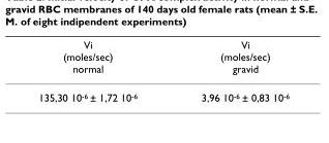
<table><thead><tr><td>Vi (moles/sec) normal</td><td>Vi (moles/sec) gravid</td></tr></thead><tbody><tr><td>135,30 10<sup>-6</sup> ± 1,72 10<sup>-6</sup></td><td>3,96 10<sup>-6</sup> ± 0,83 10<sup>-6</sup></td></tr></tbody></table>